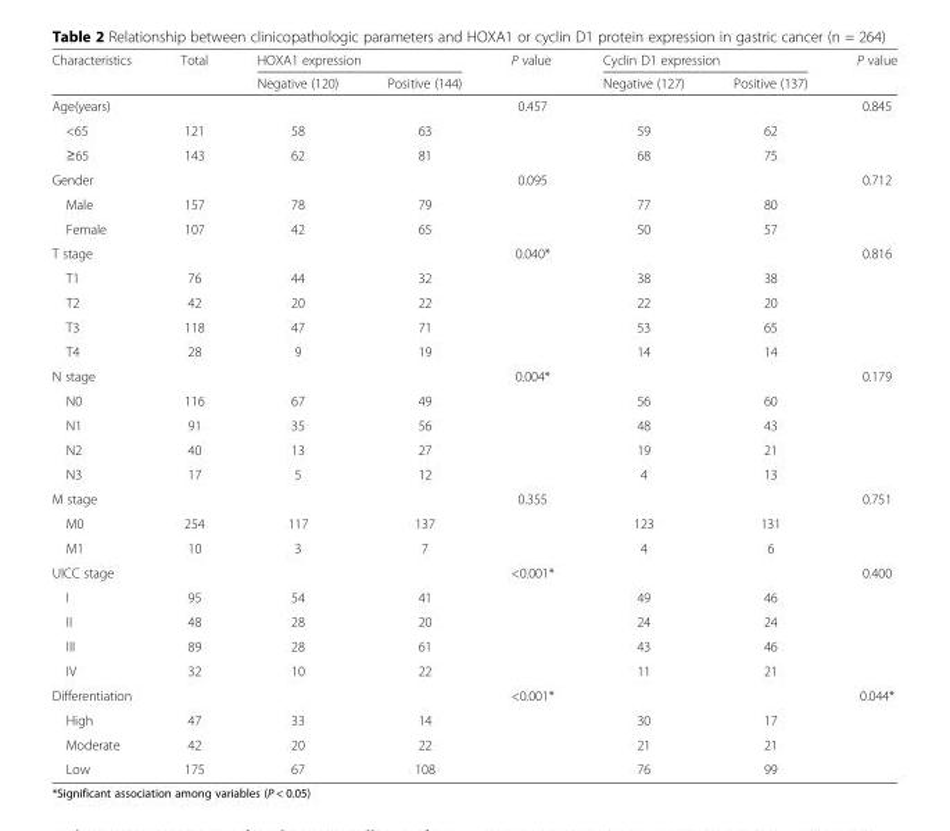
<table><thead><tr><td rowspan="2">Characteristics</td><td rowspan="2">Total</td><td colspan="2">HOXA1 expression</td><td rowspan="2">P value</td><td colspan="2">Cyclin D1 expression</td><td rowspan="2">P value</td></tr><tr><td>Negative (120)</td><td>Positive (144)</td><td>Negative (127)</td><td>Positive (137)</td></tr></thead><tbody><tr><td>Age(years)</td><td></td><td></td><td></td><td>0.457</td><td></td><td></td><td>0.845</td></tr><tr><td>&lt;65</td><td>121</td><td>58</td><td>63</td><td></td><td>59</td><td>62</td><td></td></tr><tr><td>≥65</td><td>143</td><td>62</td><td>81</td><td></td><td>68</td><td>75</td><td></td></tr><tr><td>Gender</td><td></td><td></td><td></td><td>0.095</td><td></td><td></td><td>0.712</td></tr><tr><td>Male</td><td>157</td><td>78</td><td>79</td><td></td><td>77</td><td>80</td><td></td></tr><tr><td>Female</td><td>107</td><td>42</td><td>65</td><td></td><td>50</td><td>57</td><td></td></tr><tr><td>T stage</td><td></td><td></td><td></td><td>0.040*</td><td></td><td></td><td>0.816</td></tr><tr><td>T1</td><td>76</td><td>44</td><td>32</td><td></td><td>38</td><td>38</td><td></td></tr><tr><td>T2</td><td>42</td><td>20</td><td>22</td><td></td><td>22</td><td>20</td><td></td></tr><tr><td>T3</td><td>118</td><td>47</td><td>71</td><td></td><td>53</td><td>65</td><td></td></tr><tr><td>T4</td><td>28</td><td>9</td><td>19</td><td></td><td>14</td><td>14</td><td></td></tr><tr><td>N stage</td><td></td><td></td><td></td><td>0.004*</td><td></td><td></td><td>0.179</td></tr><tr><td>N0</td><td>116</td><td>67</td><td>49</td><td></td><td>56</td><td>60</td><td></td></tr><tr><td>N1</td><td>91</td><td>35</td><td>56</td><td></td><td>48</td><td>43</td><td></td></tr><tr><td>N2</td><td>40</td><td>13</td><td>27</td><td></td><td>19</td><td>21</td><td></td></tr><tr><td>N3</td><td>17</td><td>5</td><td>12</td><td></td><td>4</td><td>13</td><td></td></tr><tr><td>M stage</td><td></td><td></td><td></td><td>0.355</td><td></td><td></td><td>0.751</td></tr><tr><td>M0</td><td>254</td><td>117</td><td>137</td><td></td><td>123</td><td>131</td><td></td></tr><tr><td>M1</td><td>10</td><td>3</td><td>7</td><td></td><td>4</td><td>6</td><td></td></tr><tr><td>UICC stage</td><td></td><td></td><td></td><td>&lt;0.001*</td><td></td><td></td><td>0.400</td></tr><tr><td>I</td><td>95</td><td>54</td><td>41</td><td></td><td>49</td><td>46</td><td></td></tr><tr><td>II</td><td>48</td><td>28</td><td>20</td><td></td><td>24</td><td>24</td><td></td></tr><tr><td>III</td><td>89</td><td>28</td><td>61</td><td></td><td>43</td><td>46</td><td></td></tr><tr><td>IV</td><td>32</td><td>10</td><td>22</td><td></td><td>11</td><td>21</td><td></td></tr><tr><td>Differentiation</td><td></td><td></td><td></td><td>&lt;0.001*</td><td></td><td></td><td>0.044*</td></tr><tr><td>High</td><td>47</td><td>33</td><td>14</td><td></td><td>30</td><td>17</td><td></td></tr><tr><td>Moderate</td><td>42</td><td>20</td><td>22</td><td></td><td>21</td><td>21</td><td></td></tr><tr><td>Low</td><td>175</td><td>67</td><td>108</td><td></td><td>76</td><td>99</td><td></td></tr></tbody></table>